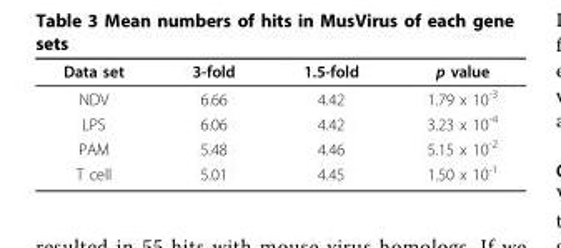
<table><thead><tr><td>Data set</td><td>3-fold</td><td>1.5-fold</td><td>p value</td></tr></thead><tbody><tr><td>NDV</td><td>6.66</td><td>4.42</td><td>1.79 x 10<sup>-3</sup></td></tr><tr><td>LPS</td><td>6.06</td><td>4.42</td><td>3.23 x 10<sup>-4</sup></td></tr><tr><td>PAM</td><td>5.48</td><td>4.46</td><td>5.15 x 10<sup>-2</sup></td></tr><tr><td>T cell</td><td>5.01</td><td>4.45</td><td>1.50 x 10<sup>-1</sup></td></tr></tbody></table>